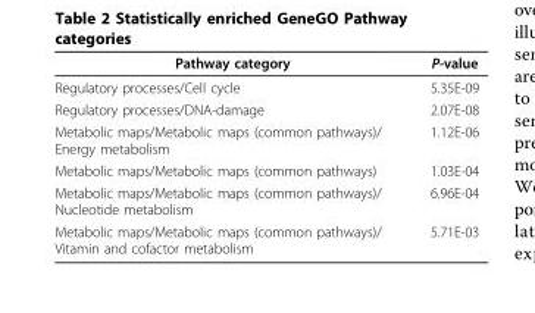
<table><thead><tr><td>Pathway category</td><td>P-value</td></tr></thead><tbody><tr><td>Regulatory processes/Cell cycle</td><td>5.35E-09</td></tr><tr><td>Regulatory processes/DNA-damage</td><td>2.07E-08</td></tr><tr><td>Metabolic maps/Metabolic maps (common pathways)/ Energy metabolism</td><td>1.12E-06</td></tr><tr><td>Metabolic maps/Metabolic maps (common pathways)</td><td>1.03E-04</td></tr><tr><td>Metabolic maps/Metabolic maps (common pathways)/ Nucleotide metabolism</td><td>6.96E-04</td></tr><tr><td>Metabolic maps/Metabolic maps (common pathways)/ Vitamin and cofactor metabolism</td><td>5.71E-03</td></tr></tbody></table>